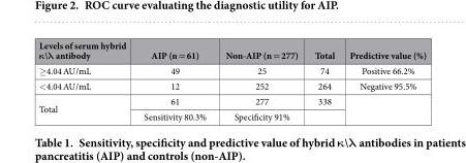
<table><thead><tr><td>Levels of serum hybrid κ\\u03bb antibody</td><td>AIP (n = 61)</td><td>Non-AIP (n = 277)</td><td>Total</td><td>Predictive value (%)</td></tr></thead><tbody><tr><td>≥ 4.04 AU/mL</td><td>49</td><td>25</td><td>74</td><td>Positive 66.2%</td></tr><tr><td>&lt; 4.04 AU/mL</td><td>12</td><td>252</td><td>264</td><td>Negative 95.5%</td></tr><tr><td rowspan="2">Total</td><td>61</td><td>277</td><td>338</td><td rowspan="2"></td></tr><tr><td>Sensitivity 80.3%</td><td>Specificity 91%</td><td></td></tr></tbody></table>